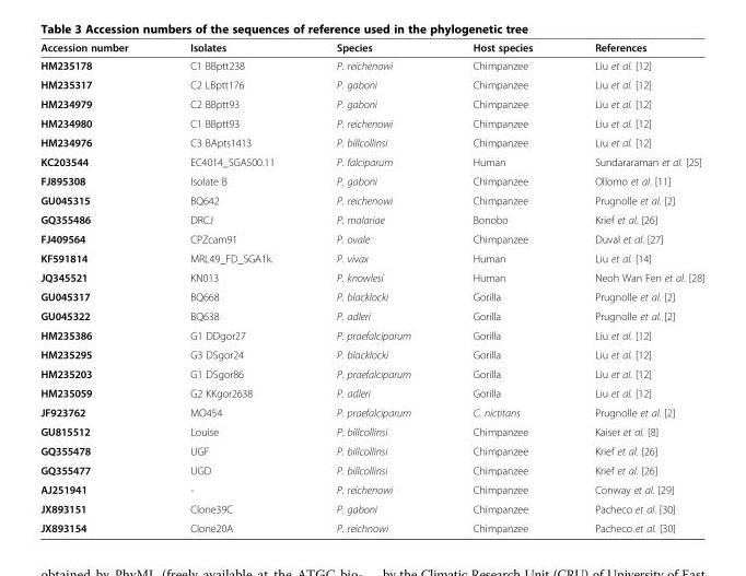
<table><thead><tr><td>Accession number</td><td>Isolates</td><td>Species</td><td>Host species</td><td>References</td></tr></thead><tbody><tr><td>HM235178</td><td>C1 BBptt238</td><td>P. reichenowi</td><td>Chimpanzee</td><td>Liu et al. [12]</td></tr><tr><td>HM235317</td><td>C2 LBptt176</td><td>P. gaboni</td><td>Chimpanzee</td><td>Liu et al. [12]</td></tr><tr><td>HM234979</td><td>C2 BBptt93</td><td>P. gaboni</td><td>Chimpanzee</td><td>Liu et al. [12]</td></tr><tr><td>HM234980</td><td>C1 BBptt93</td><td>P. reichenowi</td><td>Chimpanzee</td><td>Liu et al. [12]</td></tr><tr><td>HM234976</td><td>C3 BApts1413</td><td>P. billcollinsi</td><td>Chimpanzee</td><td>Liu et al. [12]</td></tr><tr><td>KC203544</td><td>EC4014_SGA500.11</td><td>P. falciparum</td><td>Human</td><td>Sundararaman et al. [25]</td></tr><tr><td>FJ895308</td><td>Isolate B</td><td>P. gaboni</td><td>Chimpanzee</td><td>Ollomo et al. [11]</td></tr><tr><td>GU045315</td><td>BQ642</td><td>P. reichenowi</td><td>Chimpanzee</td><td>Prugnolle et al. [2]</td></tr><tr><td>GQ355486</td><td>DRCJ</td><td>P. malariae</td><td>Bonobo</td><td>Krief et al. [26]</td></tr><tr><td>FJ409564</td><td>CPZcam91</td><td>P. ovale</td><td>Chimpanzee</td><td>Duval et al. [27]</td></tr><tr><td>KF591814</td><td>MRL49_FD_SGA1k.</td><td>P. vivax</td><td>Human</td><td>Liu et al. [14]</td></tr><tr><td>JQ345521</td><td>KN013</td><td>P. knowlesi</td><td>Human</td><td>Neoh Wan Fen et al. [28]</td></tr><tr><td>GU045317</td><td>BQ668</td><td>P. blacklocki</td><td>Gorilla</td><td>Prugnolle et al. [2]</td></tr><tr><td>GU045322</td><td>BQ638</td><td>P. adleri</td><td>Gorilla</td><td>Prugnolle et al. [2]</td></tr><tr><td>HM235386</td><td>G1 DDgor27</td><td>P. praefalciparum</td><td>Gorilla</td><td>Liu et al. [12]</td></tr><tr><td>HM235295</td><td>G3 DSgor24</td><td>P. blacklocki</td><td>Gorilla</td><td>Liu et al. [12]</td></tr><tr><td>HM235203</td><td>G1 DSgor86</td><td>P. praefalciparum</td><td>Gorilla</td><td>Liu et al. [12]</td></tr><tr><td>HM235059</td><td>G2 KKgor2638</td><td>P. adleri</td><td>Gorilla</td><td>Liu et al. [12]</td></tr><tr><td>JF923762</td><td>MO454</td><td>P. praefalciparum</td><td>C. nictitans</td><td>Prugnolle et al. [2]</td></tr><tr><td>GU815512</td><td>Louise</td><td>P. billcollinsi</td><td>Chimpanzee</td><td>Kaiser et al. [8]</td></tr><tr><td>GQ355478</td><td>UGF</td><td>P. billcollinsi</td><td>Chimpanzee</td><td>Krief et al. [26]</td></tr><tr><td>GQ355477</td><td>UGD</td><td>P. billcollinsi</td><td>Chimpanzee</td><td>Krief et al. [26]</td></tr><tr><td>AJ251941</td><td>-</td><td>P. reichenowi</td><td>Chimpanzee</td><td>Conway et al. [29]</td></tr><tr><td>JX893151</td><td>Clone39C</td><td>P. gaboni</td><td>Chimpanzee</td><td>Pacheco et al. [30]</td></tr><tr><td>JX893154</td><td>Clone20A</td><td>P. reichnowi</td><td>Chimpanzee</td><td>Pacheco et al. [30]</td></tr></tbody></table>